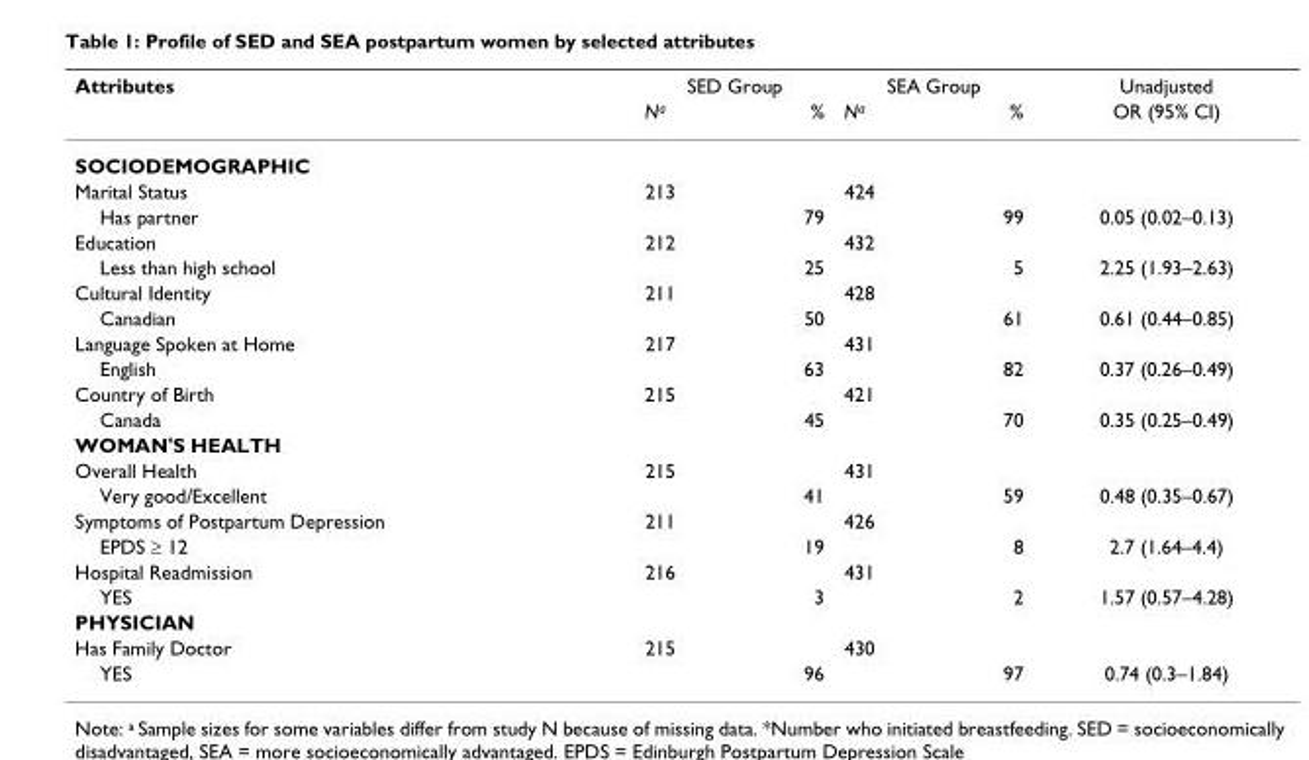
<table><thead><tr><td rowspan="2">Attributes</td><td colspan="2">SED Group</td><td colspan="2">SEA Group</td><td rowspan="2">Unadjusted OR (95% CI)</td></tr><tr><td>N<sup>a</sup></td><td>%</td><td>N<sup>a</sup></td><td>%</td></tr></thead><tbody><tr><td colspan="6">SOCIODEMOGRAPHIC</td></tr><tr><td>Marital Status</td><td>213</td><td></td><td>424</td><td></td><td></td></tr><tr><td>Has partner</td><td></td><td>79</td><td></td><td>99</td><td>0.05 (0.02–0.13)</td></tr><tr><td>Education</td><td>212</td><td></td><td>432</td><td></td><td></td></tr><tr><td>Less than high school</td><td></td><td>25</td><td></td><td>5</td><td>2.25 (1.93–2.63)</td></tr><tr><td>Cultural Identity</td><td>211</td><td></td><td>428</td><td></td><td></td></tr><tr><td>Canadian</td><td></td><td>50</td><td></td><td>61</td><td>0.61 (0.44–0.85)</td></tr><tr><td>Language Spoken at Home</td><td>217</td><td></td><td>431</td><td></td><td></td></tr><tr><td>English</td><td></td><td>63</td><td></td><td>82</td><td>0.37 (0.26–0.49)</td></tr><tr><td>Country of Birth</td><td>215</td><td></td><td>421</td><td></td><td></td></tr><tr><td>Canada</td><td></td><td>45</td><td></td><td>70</td><td>0.35 (0.25–0.49)</td></tr><tr><td colspan="6">WOMAN&#x27;S HEALTH</td></tr><tr><td>Overall Health</td><td>215</td><td></td><td>431</td><td></td><td></td></tr><tr><td>Very good/Excellent</td><td></td><td>41</td><td></td><td>59</td><td>0.48 (0.35–0.67)</td></tr><tr><td>Symptoms of Postpartum Depression</td><td>211</td><td></td><td>426</td><td></td><td></td></tr><tr><td>EPDS ≥ 12</td><td></td><td>19</td><td></td><td>8</td><td>2.7 (1.64–4.4)</td></tr><tr><td>Hospital Readmission</td><td>216</td><td></td><td>431</td><td></td><td></td></tr><tr><td>YES</td><td></td><td>3</td><td></td><td>2</td><td>1.57 (0.57–4.28)</td></tr><tr><td colspan="6">PHYSICIAN</td></tr><tr><td>Has Family Doctor</td><td>215</td><td></td><td>430</td><td></td><td></td></tr><tr><td>YES</td><td></td><td>96</td><td></td><td>97</td><td>0.74 (0.3–1.84)</td></tr></tbody></table>